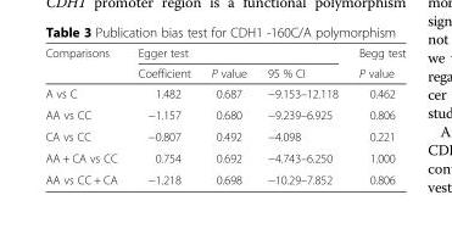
<table><thead><tr><td rowspan="2">Comparisons</td><td colspan="3">Egger test</td><td rowspan="2">Begg test P value</td></tr><tr><td>Coefficient</td><td>P value</td><td>95 % CI</td></tr></thead><tbody><tr><td>A vs C</td><td>1.482</td><td>0.687</td><td>−9.153–12.118</td><td>0.462</td></tr><tr><td>AA vs CC</td><td>−1.157</td><td>0.680</td><td>−9.239–6.925</td><td>0.806</td></tr><tr><td>CA vs CC</td><td>−0.807</td><td>0.492</td><td>−4.098</td><td>0.221</td></tr><tr><td>AA + CA vs CC</td><td>0.754</td><td>0.692</td><td>−4.743–6.250</td><td>1.000</td></tr><tr><td>AA vs CC + CA</td><td>−1.218</td><td>0.698</td><td>−10.29–7.852</td><td>0.806</td></tr></tbody></table>